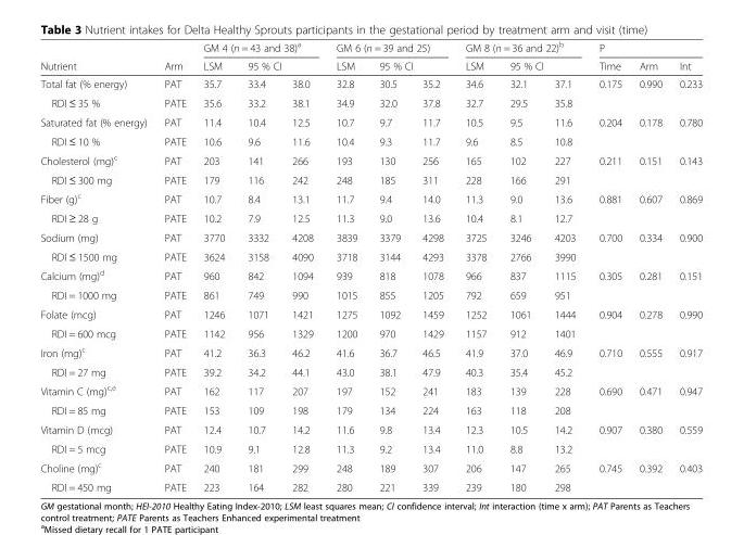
<table><thead><tr><td rowspan="3">Nutrient Total fat (% energy)</td><td rowspan="3">Arm PAT</td><td colspan="3">GM 4 (n = 43 and 38)<sup>a</sup></td><td colspan="3">GM 6 (n = 39 and 25)</td><td colspan="3">GM 8 (n = 36 and 22)<sup>b</sup></td><td colspan="3">P</td></tr><tr><td rowspan="2">LSM 35.7</td><td colspan="2">95 % CI</td><td rowspan="2">LSM 32.8</td><td colspan="2">95 % CI</td><td rowspan="2">LSM 34.6</td><td colspan="2">95 % CI</td><td rowspan="2">Time 0.175</td><td rowspan="2">Arm 0.990</td><td rowspan="2">Int 0.233</td></tr><tr><td>33.4</td><td>38.0</td><td>30.5</td><td>35.2</td><td>32.1</td><td>37.1</td></tr></thead><tbody><tr><td>RDI ≤ 35 %</td><td>PATE</td><td>35.6</td><td>33.2</td><td>38.1</td><td>34.9</td><td>32.0</td><td>37.8</td><td>32.7</td><td>29.5</td><td>35.8</td><td></td><td></td><td></td></tr><tr><td>Saturated fat (% energy)</td><td>PAT</td><td>11.4</td><td>10.4</td><td>12.5</td><td>10.7</td><td>9.7</td><td>11.7</td><td>10.5</td><td>9.5</td><td>11.6</td><td>0.204</td><td>0.178</td><td>0.780</td></tr><tr><td>RDI ≤ 10 %</td><td>PATE</td><td>10.6</td><td>9.6</td><td>11.6</td><td>10.4</td><td>9.3</td><td>11.7</td><td>9.6</td><td>8.5</td><td>10.8</td><td></td><td></td><td></td></tr><tr><td>Cholesterol (mg)<sup>c</sup></td><td>PAT</td><td>203</td><td>141</td><td>266</td><td>193</td><td>130</td><td>256</td><td>165</td><td>102</td><td>227</td><td>0.211</td><td>0.151</td><td>0.143</td></tr><tr><td>RDI ≤ 300 mg</td><td>PATE</td><td>179</td><td>116</td><td>242</td><td>248</td><td>185</td><td>311</td><td>228</td><td>166</td><td>291</td><td></td><td></td><td></td></tr><tr><td>Fiber (g)<sup>c</sup></td><td>PAT</td><td>10.7</td><td>8.4</td><td>13.1</td><td>11.7</td><td>9.4</td><td>14.0</td><td>11.3</td><td>9.0</td><td>13.6</td><td>0.881</td><td>0.607</td><td>0.869</td></tr><tr><td>RDI ≥ 28 g</td><td>PATE</td><td>10.2</td><td>7.9</td><td>12.5</td><td>11.3</td><td>9.0</td><td>13.6</td><td>10.4</td><td>8.1</td><td>12.7</td><td></td><td></td><td></td></tr><tr><td>Sodium (mg)</td><td>PAT</td><td>3770</td><td>3332</td><td>4208</td><td>3839</td><td>3379</td><td>4298</td><td>3725</td><td>3246</td><td>4203</td><td>0.700</td><td>0.334</td><td>0.900</td></tr><tr><td>RDI ≤ 1500 mg</td><td>PATE</td><td>3624</td><td>3158</td><td>4090</td><td>3718</td><td>3144</td><td>4293</td><td>3378</td><td>2766</td><td>3990</td><td></td><td></td><td></td></tr><tr><td>Calcium (mg)<sup>d</sup></td><td>PAT</td><td>960</td><td>842</td><td>1094</td><td>939</td><td>818</td><td>1078</td><td>966</td><td>837</td><td>1115</td><td>0.305</td><td>0.281</td><td>0.151</td></tr><tr><td>RDI = 1000 mg</td><td>PATE</td><td>861</td><td>749</td><td>990</td><td>1015</td><td>855</td><td>1205</td><td>792</td><td>659</td><td>951</td><td></td><td></td><td></td></tr><tr><td>Folate (mcg)</td><td>PAT</td><td>1246</td><td>1071</td><td>1421</td><td>1275</td><td>1092</td><td>1459</td><td>1252</td><td>1061</td><td>1444</td><td>0.904</td><td>0.278</td><td>0.990</td></tr><tr><td>RDI = 600 mcg</td><td>PATE</td><td>1142</td><td>956</td><td>1329</td><td>1200</td><td>970</td><td>1429</td><td>1157</td><td>912</td><td>1401</td><td></td><td></td><td></td></tr><tr><td>Iron (mg)<sup>c</sup></td><td>PAT</td><td>41.2</td><td>36.3</td><td>46.2</td><td>41.6</td><td>36.7</td><td>46.5</td><td>41.9</td><td>37.0</td><td>46.9</td><td>0.710</td><td>0.555</td><td>0.917</td></tr><tr><td>RDI = 27 mg</td><td>PATE</td><td>39.2</td><td>34.2</td><td>44.1</td><td>43.0</td><td>38.1</td><td>47.9</td><td>40.3</td><td>35.4</td><td>45.2</td><td></td><td></td><td></td></tr><tr><td>Vitamin C (mg)<sup>c,e</sup></td><td>PAT</td><td>162</td><td>117</td><td>207</td><td>197</td><td>152</td><td>241</td><td>183</td><td>139</td><td>228</td><td>0.690</td><td>0.471</td><td>0.947</td></tr><tr><td>RDI = 85 mg</td><td>PATE</td><td>153</td><td>109</td><td>198</td><td>179</td><td>134</td><td>224</td><td>163</td><td>118</td><td>208</td><td></td><td></td><td></td></tr><tr><td>Vitamin D (mcg)</td><td>PAT</td><td>12.4</td><td>10.7</td><td>14.2</td><td>11.6</td><td>9.8</td><td>13.4</td><td>12.3</td><td>10.5</td><td>14.2</td><td>0.907</td><td>0.380</td><td>0.559</td></tr><tr><td>RDI = 5 mcg</td><td>PATE</td><td>10.9</td><td>9.1</td><td>12.8</td><td>11.3</td><td>9.2</td><td>13.4</td><td>11.0</td><td>8.8</td><td>13.2</td><td></td><td></td><td></td></tr><tr><td>Choline (mg)<sup>c</sup></td><td>PAT</td><td>240</td><td>181</td><td>299</td><td>248</td><td>189</td><td>307</td><td>206</td><td>147</td><td>265</td><td>0.745</td><td>0.392</td><td>0.403</td></tr><tr><td>RDI = 450 mg</td><td>PATE</td><td>223</td><td>164</td><td>282</td><td>280</td><td>221</td><td>339</td><td>239</td><td>180</td><td>298</td><td></td><td></td><td></td></tr></tbody></table>